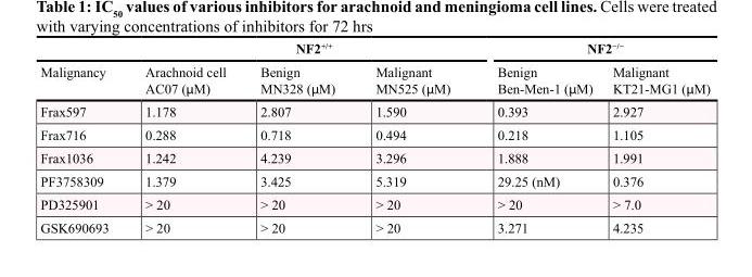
<table><thead><tr><td colspan="4">NF2<sup>+/+</sup></td><td colspan="2">NF2<sup>−/−</sup></td></tr><tr><td>Malignancy</td><td>Arachnoid cell AC07 (µM)</td><td>Benign MN328 (µM)</td><td>Malignant MN525 (µM)</td><td>Benign Ben-Men-1 (µM)</td><td>Malignant KT21-MG1 (µM)</td></tr></thead><tbody><tr><td>Frax597</td><td>1.178</td><td>2.807</td><td>1.590</td><td>0.393</td><td>2.927</td></tr><tr><td>Frax716</td><td>0.288</td><td>0.718</td><td>0.494</td><td>0.218</td><td>1.105</td></tr><tr><td>Frax1036</td><td>1.242</td><td>4.239</td><td>3.296</td><td>1.888</td><td>1.991</td></tr><tr><td>PF3758309</td><td>1.379</td><td>3.425</td><td>5.319</td><td>29.25 (nM)</td><td>0.376</td></tr><tr><td>PD325901</td><td>&gt; 20</td><td>&gt; 20</td><td>&gt; 20</td><td>&gt; 20</td><td>&gt; 7.0</td></tr><tr><td>GSK690693</td><td>&gt; 20</td><td>&gt; 20</td><td>&gt; 20</td><td>3.271</td><td>4.235</td></tr></tbody></table>